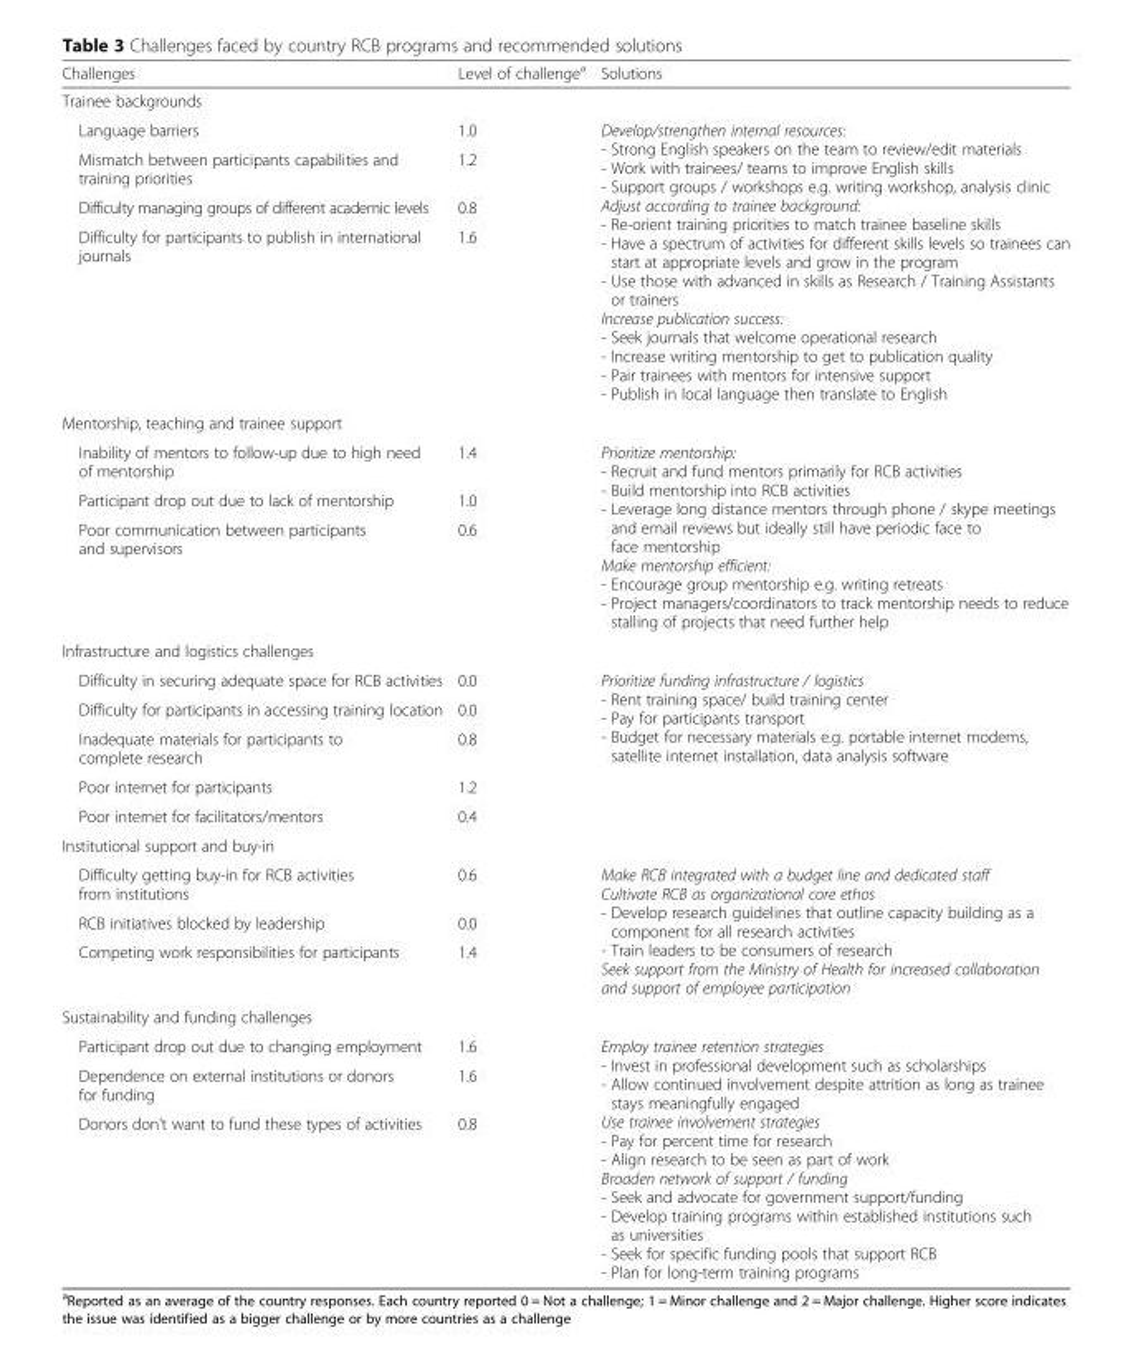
<table><thead><tr><td>Challenges</td><td>Level of challenge<sup>a</sup></td><td>Solutions</td></tr></thead><tbody><tr><td colspan="3">Trainee backgrounds</td></tr><tr><td>Language barriers</td><td>1.0</td><td rowspan="4">Develop/strengthen internal resources: - Strong English speakers on the team to review/edit materials - Work with trainees/ teams to improve English skills - Support groups / workshops e.g. writing workshop, analysis clinic Adjust according to trainee background: - Re-orient training priorities to match trainee baseline skills - Have a spectrum of activities for different skills levels so trainees can start at appropriate levels and grow in the program - Use those with advanced in skills as Research / Training Assistants or trainers Increase publication success: - Seek journals that welcome operational research - Increase writing mentorship to get to publication quality - Pair trainees with mentors for intensive support - Publish in local language then translate to English</td></tr><tr><td>Mismatch between participants capabilities and training priorities</td><td>1.2</td></tr><tr><td>Difficulty managing groups of different academic levels</td><td>0.8</td></tr><tr><td>Difficulty for participants to publish in international journals</td><td>1.6</td></tr><tr><td colspan="3">Mentorship, teaching and trainee support</td></tr><tr><td>Inability of mentors to follow-up due to high need of mentorship</td><td>1.4</td><td rowspan="3">Prioritize mentorship: - Recruit and fund mentors primarily for RCB activities - Build mentorship into RCB activities - Leverage long distance mentors through phone / skype meetings and email reviews but ideally still have periodic face to face mentorship Make mentorship efficient: - Encourage group mentorship e.g. writing retreats - Project managers/coordinators to track mentorship needs to reduce stalling of projects that need further help</td></tr><tr><td>Participant drop out due to lack of mentorship</td><td>1.0</td></tr><tr><td>Poor communication between participants and supervisors</td><td>0.6</td></tr><tr><td colspan="3">Infrastructure and logistics challenges</td></tr><tr><td>Difficulty in securing adequate space for RCB activities</td><td>0.0</td><td rowspan="5">Prioritize funding infrastructure / logistics - Rent training space/ build training center - Pay for participants transport - Budget for necessary materials e.g. portable internet modems, satellite internet installation, data analysis software</td></tr><tr><td>Difficulty for participants in accessing training location</td><td>0.0</td></tr><tr><td>Inadequate materials for participants to complete research</td><td>0.8</td></tr><tr><td>Poor internet for participants</td><td>1.2</td></tr><tr><td>Poor internet for facilitators/mentors</td><td>0.4</td></tr><tr><td colspan="3">Institutional support and buy-in</td></tr><tr><td>Difficulty getting buy-in for RCB activities from institutions</td><td>0.6</td><td rowspan="3">Make RCB integrated with a budget line and dedicated staff Cultivate RCB as organizational core ethos - Develop research guidelines that outline capacity building as a component for all research activities - Train leaders to be consumers of research Seek support from the Ministry of Health for increased collaboration and support of employee participation</td></tr><tr><td>RCB initiatives blocked by leadership</td><td>0.0</td></tr><tr><td>Competing work responsibilities for participants</td><td>1.4</td></tr><tr><td colspan="3">Sustainability and funding challenges</td></tr><tr><td>Participant drop out due to changing employment</td><td>1.6</td><td rowspan="3">Employ trainee retention strategies - Invest in professional development such as scholarships - Allow continued involvement despite attrition as long as trainee stays meaningfully engaged Use trainee involvement strategies - Pay for percent time for research - Align research to be seen as part of work Broaden network of support / funding - Seek and advocate for government support/funding - Develop training programs within established institutions such as universities - Seek for specific funding pools that support RCB - Plan for long-term training programs</td></tr><tr><td>Dependence on external institutions or donors for funding</td><td>1.6</td></tr><tr><td>Donors don’t want to fund these types of activities</td><td>0.8</td></tr></tbody></table>